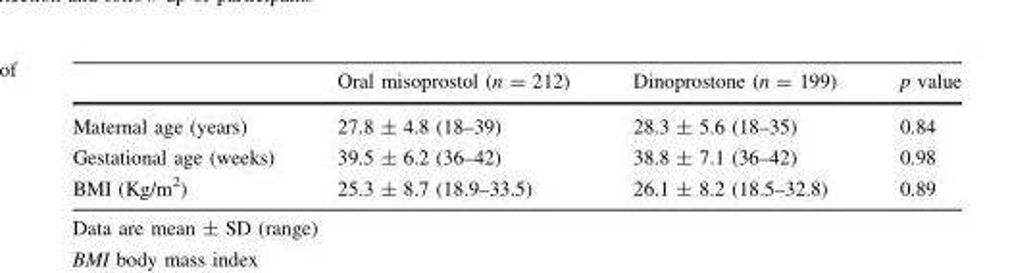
<table><thead><tr><td></td><td>Oral misoprostol (n = 212)</td><td>Dinoprostone (n = 199)</td><td>p value</td></tr></thead><tbody><tr><td>Maternal age (years)</td><td>27.8 ± 4.8 (18–39)</td><td>28.3 ± 5.6 (18–35)</td><td>0.84</td></tr><tr><td>Gestational age (weeks)</td><td>39.5 ± 6.2 (36–42)</td><td>38.8 ± 7.1 (36–42)</td><td>0.98</td></tr><tr><td>BMI (Kg/m<sup>2</sup>)</td><td>25.3 ± 8.7 (18.9–33.5)</td><td>26.1 ± 8.2 (18.5–32.8)</td><td>0.89</td></tr></tbody></table>